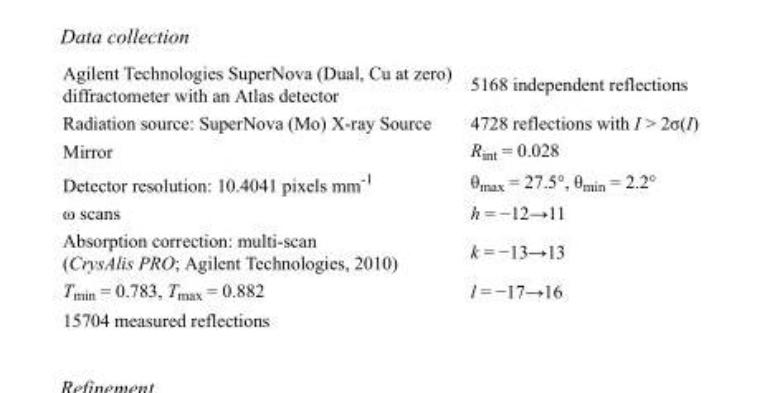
<table><tbody><tr><td>Agilent Technologies SuperNova (Dual, Cu at zero) diffractometer with an Atlas detector</td><td>5168 independent reflections</td></tr><tr><td>Radiation source: SuperNova (Mo) X-ray Source</td><td>4728 reflections with I &gt; 2σ(I)</td></tr><tr><td>Mirror</td><td>R<sub>int</sub> = 0.028</td></tr><tr><td>Detector resolution: 10.4041 pixels mm<sup>-1</sup></td><td>θ<sub>max</sub> = 27.5°, θ<sub>min</sub> = 2.2°</td></tr><tr><td>ω scans</td><td>h = −12→11</td></tr><tr><td>Absorption correction: multi-scan (CrysAlis PRO; Agilent Technologies, 2010)</td><td>k = −13→13</td></tr><tr><td>T<sub>min</sub> = 0.783, T<sub>max</sub> = 0.882</td><td>l = −17→16</td></tr><tr><td>15704 measured reflections</td><td></td></tr></tbody></table>